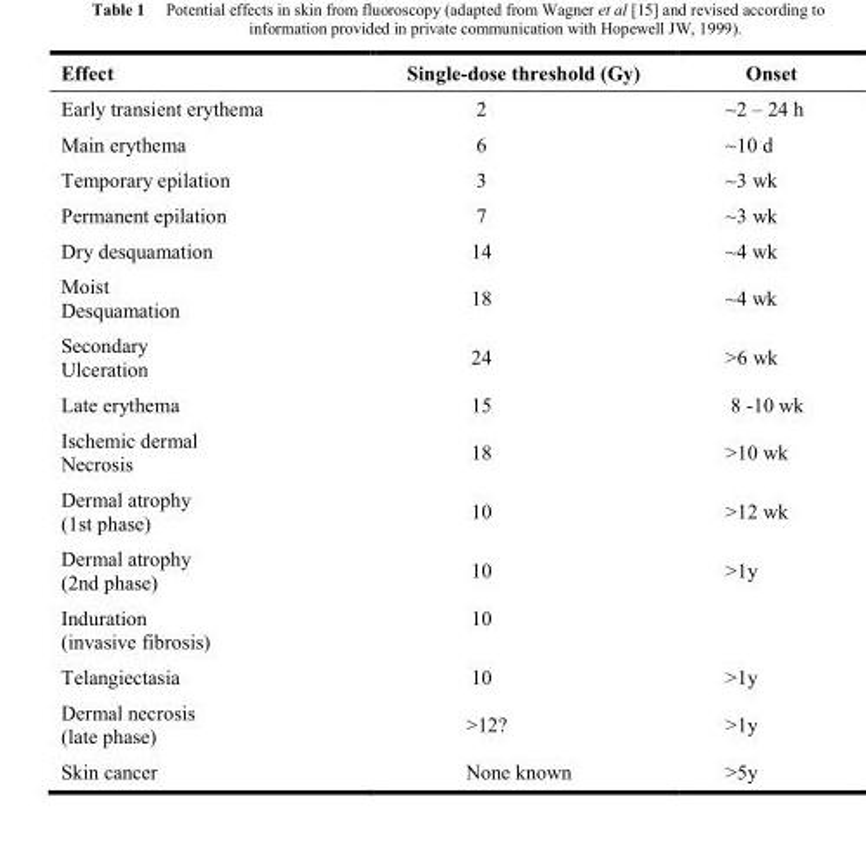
<table><thead><tr><td>Effect</td><td>Single-dose threshold (Gy)</td><td>Onset</td></tr></thead><tbody><tr><td>Early transient erythema</td><td>2</td><td>~2 – 24 h</td></tr><tr><td>Main erythema</td><td>6</td><td>~10 d</td></tr><tr><td>Temporary epilation</td><td>3</td><td>~3 wk</td></tr><tr><td>Permanent epilation</td><td>7</td><td>~3 wk</td></tr><tr><td>Dry desquamation</td><td>14</td><td>~4 wk</td></tr><tr><td>Moist Desquamation</td><td>18</td><td>~4 wk</td></tr><tr><td>Secondary Ulceration</td><td>24</td><td>&gt;6 wk</td></tr><tr><td>Late erythema</td><td>15</td><td>8 -10 wk</td></tr><tr><td>Ischemic dermal Necrosis</td><td>18</td><td>&gt;10 wk</td></tr><tr><td>Dermal atrophy (1st phase)</td><td>10</td><td>&gt;12 wk</td></tr><tr><td>Dermal atrophy (2nd phase)</td><td>10</td><td>&gt;1y</td></tr><tr><td>Induration (invasive fibrosis)</td><td>10</td><td></td></tr><tr><td>Telangiectasia</td><td>10</td><td>&gt;1y</td></tr><tr><td>Dermal necrosis (late phase)</td><td>&gt;12?</td><td>&gt;1y</td></tr><tr><td>Skin cancer</td><td>None known</td><td>&gt;5y</td></tr></tbody></table>